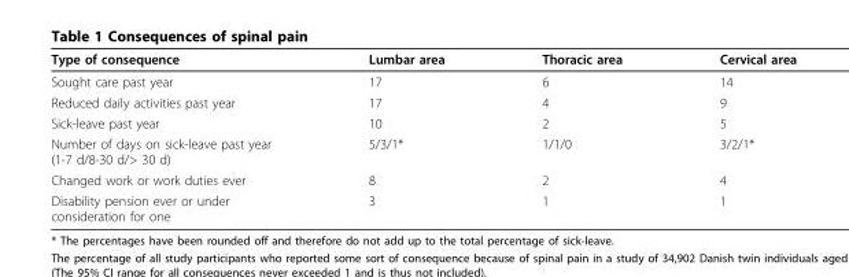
<table><thead><tr><td>Type of consequence</td><td>Lumbar area</td><td>Thoracic area</td><td>Cervical area</td></tr></thead><tbody><tr><td>Sought care past year</td><td>17</td><td>6</td><td>14</td></tr><tr><td>Reduced daily activities past year</td><td>17</td><td>4</td><td>9</td></tr><tr><td>Sick-leave past year</td><td>10</td><td>2</td><td>5</td></tr><tr><td>Number of days on sick-leave past year (1-7 d/8-30 d/&gt; 30 d)</td><td>5/3/1*</td><td>1/1/0</td><td>3/2/1*</td></tr><tr><td>Changed work or work duties ever</td><td>8</td><td>2</td><td>4</td></tr><tr><td>Disability pension ever or under consideration for one</td><td>3</td><td>1</td><td>1</td></tr></tbody></table>